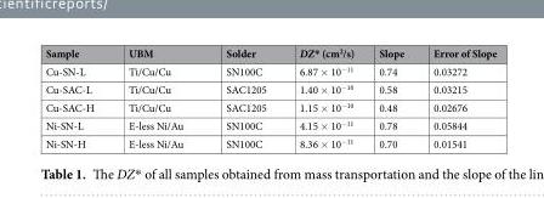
<table><thead><tr><td>Sample</td><td>UBM</td><td>Solder</td><td>DZ* (cm<sup>2</sup>/s)</td><td>Slope</td><td>Error of Slope</td></tr></thead><tbody><tr><td>Cu-SN-L</td><td>Ti/Cu/Cu</td><td>SN100C</td><td>6.87 × 10<sup>−11</sup></td><td>0.74</td><td>0.03272</td></tr><tr><td>Cu-SAC-L</td><td>Ti/Cu/Cu</td><td>SAC1205</td><td>1.40 × 10<sup>−10</sup></td><td>0.58</td><td>0.03215</td></tr><tr><td>Cu-SAC-H</td><td>Ti/Cu/Cu</td><td>SAC1205</td><td>1.15 × 10<sup>−10</sup></td><td>0.48</td><td>0.02676</td></tr><tr><td>Ni-SN-L</td><td>E-less Ni/Au</td><td>SN100C</td><td>4.15 × 10<sup>−11</sup></td><td>0.78</td><td>0.05844</td></tr><tr><td>Ni-SN-H</td><td>E-less Ni/Au</td><td>SN100C</td><td>8.36 × 10<sup>−11</sup></td><td>0.70</td><td>0.01541</td></tr></tbody></table>